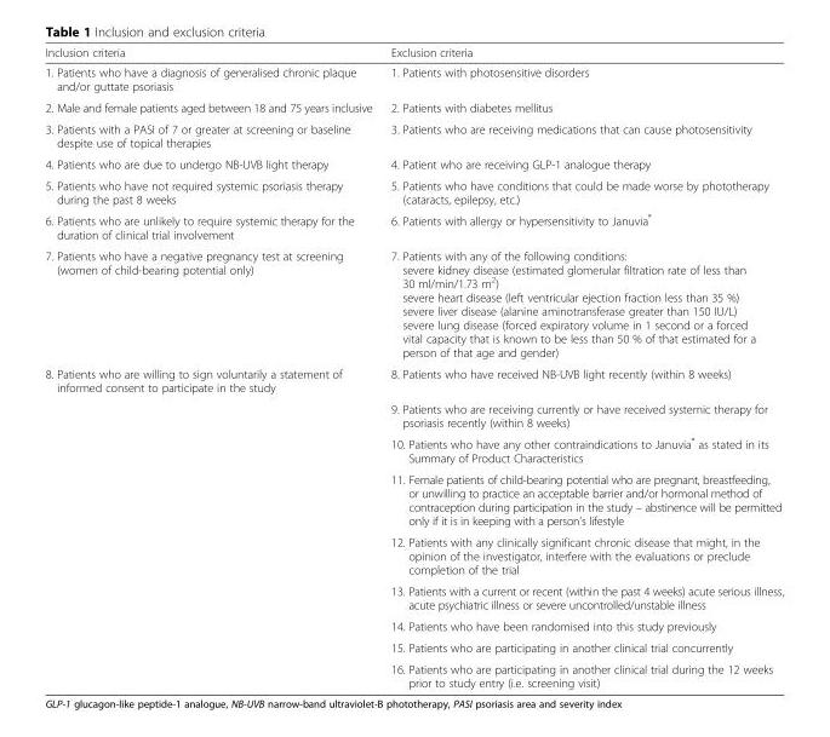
<table><thead><tr><td>Inclusion criteria</td><td>Exclusion criteria</td></tr></thead><tbody><tr><td>1. Patients who have a diagnosis of generalised chronic plaque and/or guttate psoriasis</td><td>1. Patients with photosensitive disorders</td></tr><tr><td>2. Male and female patients aged between 18 and 75 years inclusive</td><td>2. Patients with diabetes mellitus</td></tr><tr><td>3. Patients with a PASI of 7 or greater at screening or baseline despite use of topical therapies</td><td>3. Patients who are receiving medications that can cause photosensitivity</td></tr><tr><td>4. Patients who are due to undergo NB-UVB light therapy</td><td>4. Patient who are receiving GLP-1 analogue therapy</td></tr><tr><td>5. Patients who have not required systemic psoriasis therapy during the past 8 weeks</td><td>5. Patients who have conditions that could be made worse by phototherapy (cataracts, epilepsy, etc.)</td></tr><tr><td>6. Patients who are unlikely to require systemic therapy for the duration of clinical trial involvement</td><td>6. Patients with allergy or hypersensitivity to Januvia<sup>®</sup></td></tr><tr><td>7. Patients who have a negative pregnancy test at screening (women of child-bearing potential only)</td><td>7. Patients with any of the following conditions: severe kidney disease (estimated glomerular filtration rate of less than 30 ml/min/1.73 m<sup>2</sup>) severe heart disease (left ventricular ejection fraction less than 35 %) severe liver disease (alanine aminotransferase greater than 150 IU/L) severe lung disease (forced expiratory volume in 1 second or a forced vital capacity that is known to be less than 50 % of that estimated for a person of that age and gender)</td></tr><tr><td rowspan="9">8. Patients who are willing to sign voluntarily a statement of informed consent to participate in the study</td><td>8. Patients who have received NB-UVB light recently (within 8 weeks)</td></tr><tr><td>9. Patients who are receiving currently or have received systemic therapy for psoriasis recently (within 8 weeks)</td></tr><tr><td>10. Patients who have any other contraindications to Januvia<sup>®</sup> as stated in its Summary of Product Characteristics</td></tr><tr><td>11. Female patients of child-bearing potential who are pregnant, breastfeeding, or unwilling to practice an acceptable barrier and/or hormonal method of contraception during participation in the study – abstinence will be permitted only if it is in keeping with a person’s lifestyle</td></tr><tr><td>12. Patients with any clinically significant chronic disease that might, in the opinion of the investigator, interfere with the evaluations or preclude completion of the trial</td></tr><tr><td>13. Patients with a current or recent (within the past 4 weeks) acute serious illness, acute psychiatric illness or severe uncontrolled/unstable illness</td></tr><tr><td>14. Patients who have been randomised into this study previously</td></tr><tr><td>15. Patients who are participating in another clinical trial concurrently</td></tr><tr><td>16. Patients who are participating in another clinical trial during the 12 weeks prior to study entry (i.e. screening visit)</td></tr></tbody></table>